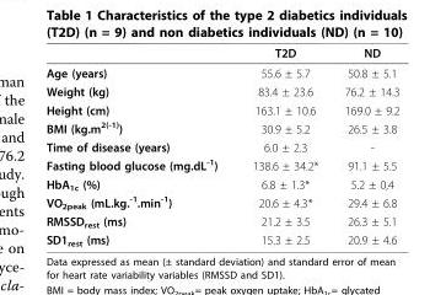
<table><thead><tr><td></td><td>T2D</td><td>ND</td></tr></thead><tbody><tr><td>Age (years)</td><td>55.6 ± 5.7</td><td>50.8 ± 5.1</td></tr><tr><td>Weight (kg)</td><td>83.4 ± 23.6</td><td>76.2 ± 14.3</td></tr><tr><td>Height (cm)</td><td>163.1 ± 10.6</td><td>169.0 ± 9.2</td></tr><tr><td>BMI (kg.m<sup>2(-1)</sup>)</td><td>30.9 ± 5.2</td><td>26.5 ± 3.8</td></tr><tr><td>Time of disease (years)</td><td>6.0 ± 2.3</td><td>-</td></tr><tr><td>Fasting blood glucose (mg.dL<sup>-1</sup>)</td><td>138.6 ± 34.2*</td><td>91.1 ± 5.5</td></tr><tr><td>HbA<sub>1c</sub> (%)</td><td>6.8 ± 1.3*</td><td>5.2 ± 0,4</td></tr><tr><td>VO<sub>2peak</sub> (mL.kg.<sup>-1</sup>.min<sup>-1</sup>)</td><td>20.6 ± 4.3*</td><td>29.4 ± 6.8</td></tr><tr><td>RMSSD<sub>rest</sub> (ms)</td><td>21.2 ± 3.5</td><td>26.3 ± 5.1</td></tr><tr><td>SD1<sub>rest</sub> (ms)</td><td>15.3 ± 2.5</td><td>20.9 ± 4.6</td></tr></tbody></table>